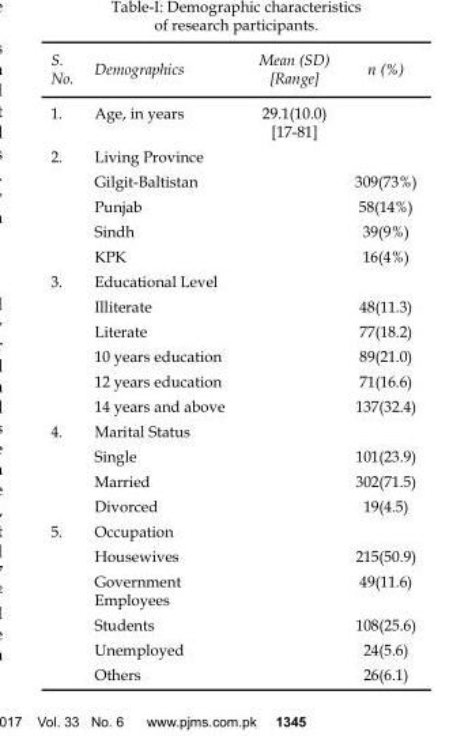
<table><thead><tr><td>S. No.</td><td>Demographics</td><td>Mean (SD) [Range]</td><td>n (%)</td></tr></thead><tbody><tr><td>1.</td><td>Age, in years</td><td>29.1(10.0) [17-81]</td><td></td></tr><tr><td rowspan="5">2.</td><td colspan="3">Living Province</td></tr><tr><td>Gilgit-Baltistan</td><td></td><td>309(73%)</td></tr><tr><td>Punjab</td><td></td><td>58(14%)</td></tr><tr><td>Sindh</td><td></td><td>39(9%)</td></tr><tr><td>KPK</td><td></td><td>16(4%)</td></tr><tr><td rowspan="6">3.</td><td colspan="3">Educational Level</td></tr><tr><td>Illiterate</td><td></td><td>48(11.3)</td></tr><tr><td>Literate</td><td></td><td>77(18.2)</td></tr><tr><td>10 years education</td><td></td><td>89(21.0)</td></tr><tr><td>12 years education</td><td></td><td>71(16.6)</td></tr><tr><td>14 years and above</td><td></td><td>137(32.4)</td></tr><tr><td rowspan="4">4.</td><td colspan="3">Marital Status</td></tr><tr><td>Single</td><td></td><td>101(23.9)</td></tr><tr><td>Married</td><td></td><td>302(71.5)</td></tr><tr><td>Divorced</td><td></td><td>19(4.5)</td></tr><tr><td rowspan="6">5.</td><td colspan="3">Occupation</td></tr><tr><td>Housewives</td><td></td><td>215(50.9)</td></tr><tr><td>Government Employees</td><td></td><td>49(11.6)</td></tr><tr><td>Students</td><td></td><td>108(25.6)</td></tr><tr><td>Unemployed</td><td></td><td>24(5.6)</td></tr><tr><td>Others</td><td></td><td>26(6.1)</td></tr></tbody></table>